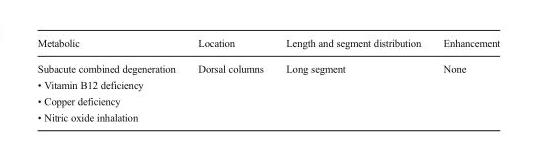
<table><thead><tr><td>Metabolic</td><td>Location</td><td>Length and segment distribution</td><td>Enhancement</td></tr></thead><tbody><tr><td>Subacute combined degeneration • Vitamin B12 deficiency • Copper deficiency • Nitric oxide inhalation</td><td>Dorsal columns</td><td>Long segment</td><td>None</td></tr></tbody></table>